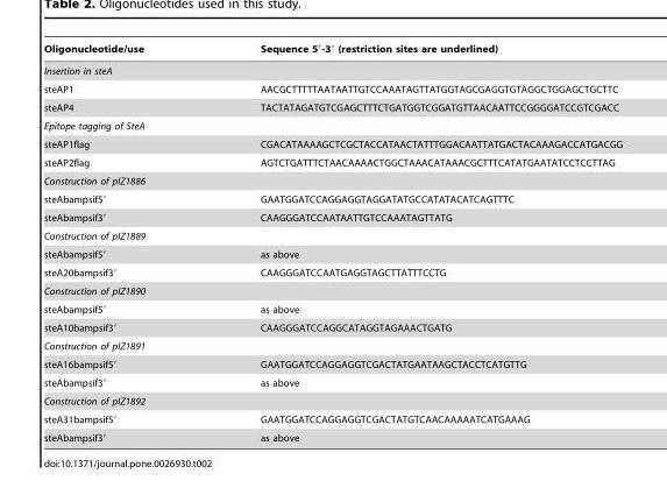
<table><thead><tr><td>Oligonucleotide/use</td><td>Sequence 5′-3′ (restriction sites are underlined)</td></tr></thead><tbody><tr><td colspan="2">Insertion in steA</td></tr><tr><td>steAP1</td><td>AACGCTTTTTAATAATTGTCCAAATAGTTATGGTAGCGAGGTGTAGGCTGGAGCTGCTTC</td></tr><tr><td>steAP4</td><td>TACTATAGATGTCGAGCTTTCTGATGGTCGGATGTTAACAATTCCGGGGATCCGTCGACC</td></tr><tr><td colspan="2">Epitope tagging of SteA</td></tr><tr><td>steAP1flag</td><td>CGACATAAAAGCTCGCTACCATAACTATTTGGACAATTATGACTACAAAGACCATGACGG</td></tr><tr><td>steAP2flag</td><td>AGTCTGATTTCTAACAAAACTGGCTAAACATAAACGCTTTCATATGAATATCCTCCTTAG</td></tr><tr><td colspan="2">Construction of pIZ1886</td></tr><tr><td>steAbampsif5′</td><td>GAATGGATCCAGGAGGTAGGATATGCCATATACATCAGTTTC</td></tr><tr><td>steAbampsif3′</td><td>CAAGGGATCCAATAATTGTCCAAATAGTTATG</td></tr><tr><td colspan="2">Construction of pIZ1889</td></tr><tr><td>steAbampsif5′</td><td>as above</td></tr><tr><td>steA20bampsif3′</td><td>CAAGGGATCCAATGAGGTAGCTTATTTCCTG</td></tr><tr><td colspan="2">Construction of pIZ1890</td></tr><tr><td>steAbampsif5′</td><td>as above</td></tr><tr><td>steA10bampsif3′</td><td>CAAGGGATCCAGGCATAGGTAGAAACTGATG</td></tr><tr><td colspan="2">Construction of pIZ1891</td></tr><tr><td>steA16bampsif5′</td><td>GAATGGATCCAGGAGGTCGACTATGAATAAGCTACCTCATGTTG</td></tr><tr><td>steAbampsif3′</td><td>as above</td></tr><tr><td colspan="2">Construction of pIZ1892</td></tr><tr><td>steA31bampsif5′</td><td>GAATGGATCCAGGAGGTCGACTATGTCAACAAAAATCATGAAAG</td></tr><tr><td>steAbampsif3′</td><td>as above</td></tr></tbody></table>